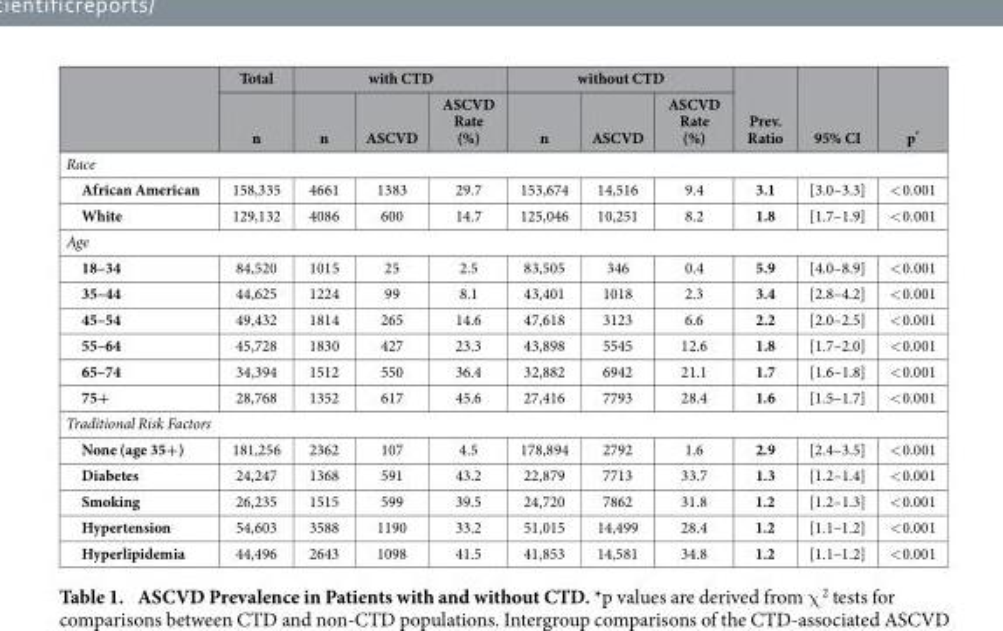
<table><thead><tr><td rowspan="2"></td><td rowspan="2">Total n</td><td colspan="3">with CTD</td><td colspan="3">without CTD</td><td rowspan="2">Prev. Ratio</td><td rowspan="2">95% CI</td><td rowspan="2">p*</td></tr><tr><td>n</td><td>ASCVD</td><td>ASCVD Rate (%)</td><td>n</td><td>ASCVD</td><td>ASCVD Rate (%)</td></tr></thead><tbody><tr><td colspan="11">Race</td></tr><tr><td>African American</td><td>158,335</td><td>4661</td><td>1383</td><td>29.7</td><td>153,674</td><td>14,516</td><td>9.4</td><td>3.1</td><td>[3.0–3.3]</td><td>&lt; 0.001</td></tr><tr><td>White</td><td>129,132</td><td>4086</td><td>600</td><td>14.7</td><td>125,046</td><td>10,251</td><td>8.2</td><td>1.8</td><td>[1.7–1.9]</td><td>&lt; 0.001</td></tr><tr><td colspan="11">Age</td></tr><tr><td>18–34</td><td>84,520</td><td>1015</td><td>25</td><td>2.5</td><td>83,505</td><td>346</td><td>0.4</td><td>5.9</td><td>[4.0–8.9]</td><td>&lt; 0.001</td></tr><tr><td>35–44</td><td>44,625</td><td>1224</td><td>99</td><td>8.1</td><td>43,401</td><td>1018</td><td>2.3</td><td>3.4</td><td>[2.8–4.2]</td><td>&lt; 0.001</td></tr><tr><td>45–54</td><td>49,432</td><td>1814</td><td>265</td><td>14.6</td><td>47,618</td><td>3123</td><td>6.6</td><td>2.2</td><td>[2.0–2.5]</td><td>&lt; 0.001</td></tr><tr><td>55–64</td><td>45,728</td><td>1830</td><td>427</td><td>23.3</td><td>43,898</td><td>5545</td><td>12.6</td><td>1.8</td><td>[1.7–2.0]</td><td>&lt; 0.001</td></tr><tr><td>65–74</td><td>34,394</td><td>1512</td><td>550</td><td>36.4</td><td>32,882</td><td>6942</td><td>21.1</td><td>1.7</td><td>[1.6–1.8]</td><td>&lt; 0.001</td></tr><tr><td>75+</td><td>28,768</td><td>1352</td><td>617</td><td>45.6</td><td>27,416</td><td>7793</td><td>28.4</td><td>1.6</td><td>[1.5–1.7]</td><td>&lt; 0.001</td></tr><tr><td colspan="11">Traditional Risk Factors</td></tr><tr><td>None (age 35+ )</td><td>181,256</td><td>2362</td><td>107</td><td>4.5</td><td>178,894</td><td>2792</td><td>1.6</td><td>2.9</td><td>[2.4–3.5]</td><td>&lt; 0.001</td></tr><tr><td>Diabetes</td><td>24,247</td><td>1368</td><td>591</td><td>43.2</td><td>22,879</td><td>7713</td><td>33.7</td><td>1.3</td><td>[1.2–1.4]</td><td>&lt; 0.001</td></tr><tr><td>Smoking</td><td>26,235</td><td>1515</td><td>599</td><td>39.5</td><td>24,720</td><td>7862</td><td>31.8</td><td>1.2</td><td>[1.2–1.3]</td><td>&lt; 0.001</td></tr><tr><td>Hypertension</td><td>54,603</td><td>3588</td><td>1190</td><td>33.2</td><td>51,015</td><td>14,499</td><td>28.4</td><td>1.2</td><td>[1.1–1.2]</td><td>&lt; 0.001</td></tr><tr><td>Hyperlipidemia</td><td>44,496</td><td>2643</td><td>1098</td><td>41.5</td><td>41,853</td><td>14,581</td><td>34.8</td><td>1.2</td><td>[1.1–1.2]</td><td>&lt; 0.001</td></tr></tbody></table>